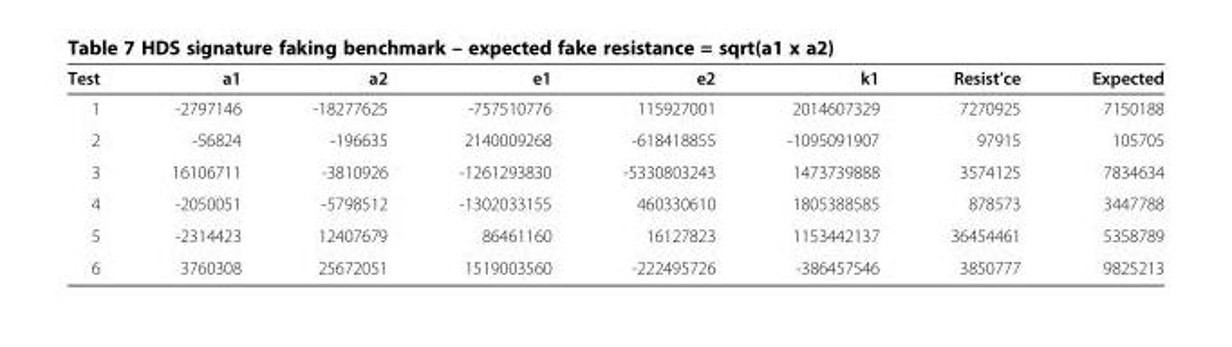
<table><thead><tr><td>Test</td><td>a1</td><td>a2</td><td>e1</td><td>e2</td><td>k1</td><td>Resist’ce</td><td>Expected</td></tr></thead><tbody><tr><td>1</td><td>-2797146</td><td>-18277625</td><td>-757510776</td><td>115927001</td><td>2014607329</td><td>7270925</td><td>7150188</td></tr><tr><td>2</td><td>-56824</td><td>-196635</td><td>2140009268</td><td>-618418855</td><td>-1095091907</td><td>97915</td><td>105705</td></tr><tr><td>3</td><td>16106711</td><td>-3810926</td><td>-1261293830</td><td>-5330803243</td><td>1473739888</td><td>3574125</td><td>7834634</td></tr><tr><td>4</td><td>-2050051</td><td>-5798512</td><td>-1302033155</td><td>460330610</td><td>1805388585</td><td>878573</td><td>3447788</td></tr><tr><td>5</td><td>-2314423</td><td>12407679</td><td>86461160</td><td>16127823</td><td>1153442137</td><td>36454461</td><td>5358789</td></tr><tr><td>6</td><td>3760308</td><td>25672051</td><td>1519003560</td><td>-222495726</td><td>-386457546</td><td>3850777</td><td>9825213</td></tr></tbody></table>